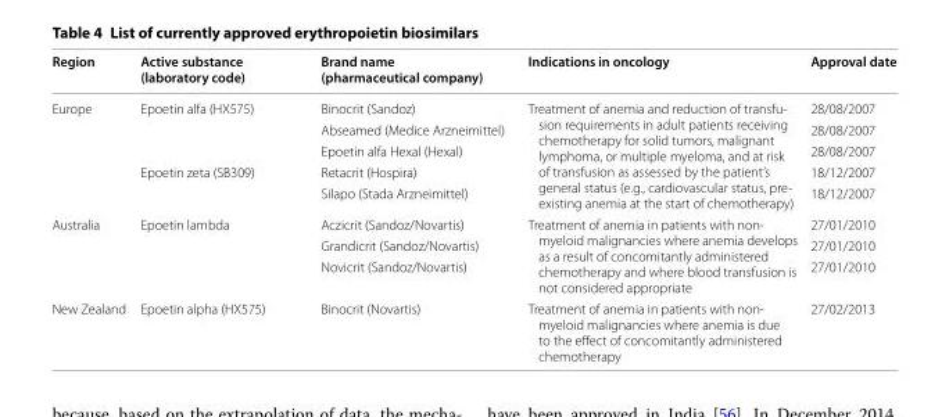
<table><thead><tr><td>Region</td><td>Active substance (laboratory code)</td><td>Brand name (pharmaceutical company)</td><td>Indications in oncology</td><td>Approval date</td></tr></thead><tbody><tr><td rowspan="5">Europe</td><td rowspan="3">Epoetin alfa (HX575)</td><td>Binocrit (Sandoz)</td><td rowspan="5">Treatment of anemia and reduction of transfu- sion requirements in adult patients receiving chemotherapy for solid tumors, malignant lymphoma, or multiple myeloma, and at risk of transfusion as assessed by the patient’s general status (e.g., cardiovascular status, pre- existing anemia at the start of chemotherapy)</td><td>28/08/2007</td></tr><tr><td>Abseamed (Medice Arzneimittel)</td><td>28/08/2007</td></tr><tr><td>Epoetin alfa Hexal (Hexal)</td><td>28/08/2007</td></tr><tr><td rowspan="2">Epoetin zeta (SB309)</td><td>Retacrit (Hospira)</td><td>18/12/2007</td></tr><tr><td>Silapo (Stada Arzneimittel)</td><td>18/12/2007</td></tr><tr><td rowspan="3">Australia</td><td rowspan="3">Epoetin lambda</td><td>Aczicrit (Sandoz/Novartis)</td><td rowspan="3">Treatment of anemia in patients with non- myeloid malignancies where anemia develops as a result of concomitantly administered chemotherapy and where blood transfusion is not considered appropriate</td><td>27/01/2010</td></tr><tr><td>Grandicrit (Sandoz/Novartis)</td><td>27/01/2010</td></tr><tr><td>Novicrit (Sandoz/Novartis)</td><td>27/01/2010</td></tr><tr><td>New Zealand</td><td>Epoetin alpha (HX575)</td><td>Binocrit (Novartis)</td><td>Treatment of anemia in patients with non- myeloid malignancies where anemia is due to the effect of concomitantly administered chemotherapy</td><td>27/02/2013</td></tr></tbody></table>